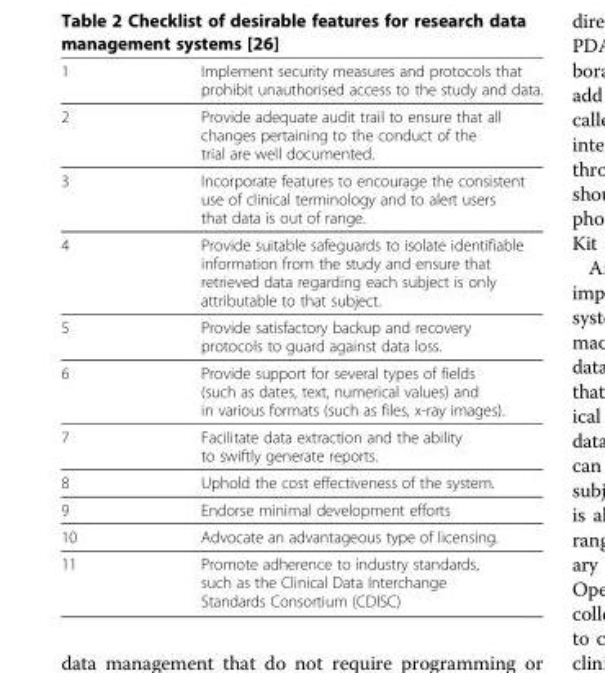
<table><tbody><tr><td>1</td><td>Implement security measures and protocols that prohibit unauthorised access to the study and data.</td></tr><tr><td>2</td><td>Provide adequate audit trail to ensure that all changes pertaining to the conduct of the trial are well documented.</td></tr><tr><td>3</td><td>Incorporate features to encourage the consistent use of clinical terminology and to alert users that data is out of range.</td></tr><tr><td>4</td><td>Provide suitable safeguards to isolate identifiable information from the study and ensure that retrieved data regarding each subject is only attributable to that subject.</td></tr><tr><td>5</td><td>Provide satisfactory backup and recovery protocols to guard against data loss.</td></tr><tr><td>6</td><td>Provide support for several types of fields (such as dates, text, numerical values) and in various formats (such as files, x-ray images).</td></tr><tr><td>7</td><td>Facilitate data extraction and the ability to swiftly generate reports.</td></tr><tr><td>8</td><td>Uphold the cost effectiveness of the system.</td></tr><tr><td>9</td><td>Endorse minimal development efforts</td></tr><tr><td>10</td><td>Advocate an advantageous type of licensing.</td></tr><tr><td>11</td><td>Promote adherence to industry standards, such as the Clinical Data Interchange Standards Consortium (CDISC)</td></tr></tbody></table>